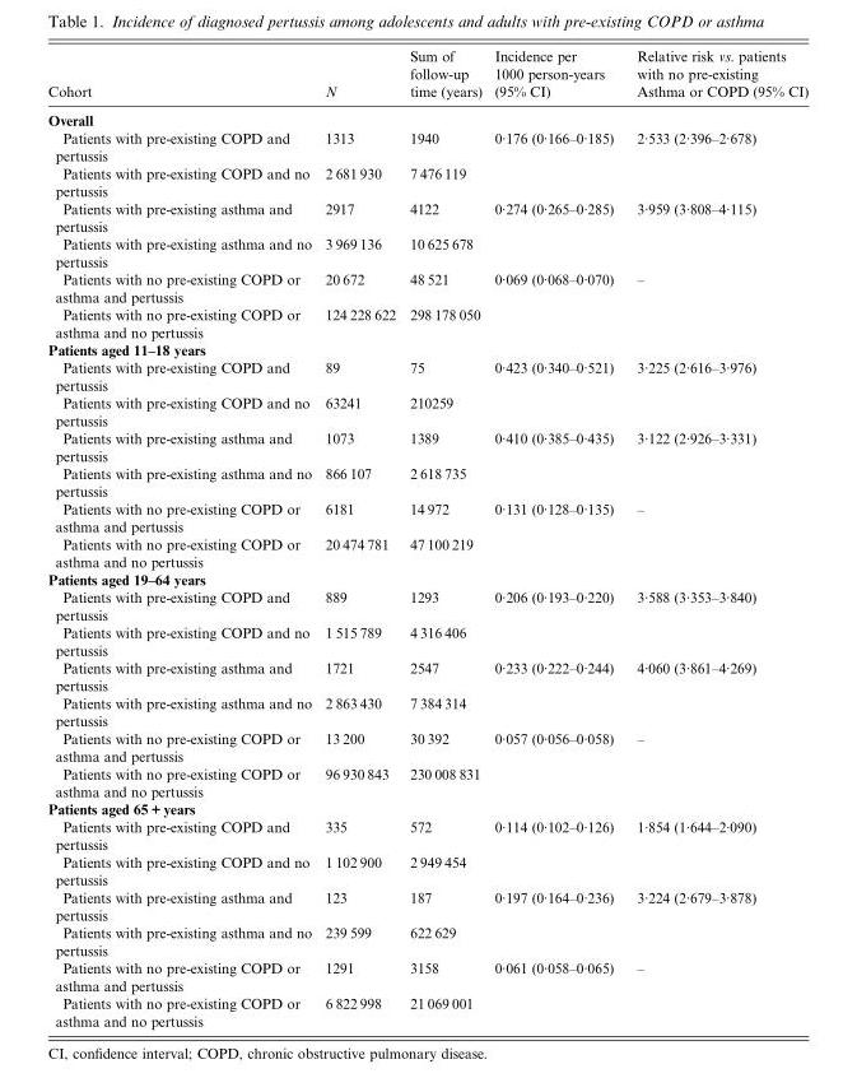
<table><thead><tr><td>Cohort</td><td>N</td><td>Sum of follow-up time (years)</td><td>Incidence per 1000 person-years (95% CI)</td><td>Relative risk vs. patients with no pre-existing Asthma or COPD (95% CI)</td></tr></thead><tbody><tr><td colspan="5">Overall</td></tr><tr><td>Patients with pre-existing COPD and pertussis</td><td>1313</td><td>1940</td><td>0·176 (0·166–0·185)</td><td>2·533 (2·396–2·678)</td></tr><tr><td>Patients with pre-existing COPD and no pertussis</td><td>2 681 930</td><td>7 476 119</td><td></td><td></td></tr><tr><td>Patients with pre-existing asthma and pertussis</td><td>2917</td><td>4122</td><td>0·274 (0·265–0·285)</td><td>3·959 (3·808–4·115)</td></tr><tr><td>Patients with pre-existing asthma and no pertussis</td><td>3 969 136</td><td>10 625 678</td><td></td><td></td></tr><tr><td>Patients with no pre-existing COPD or asthma and pertussis</td><td>20 672</td><td>48 521</td><td>0·069 (0·068–0·070)</td><td>–</td></tr><tr><td>Patients with no pre-existing COPD or asthma and no pertussis</td><td>124 228 622</td><td>298 178 050</td><td></td><td></td></tr><tr><td colspan="5">Patients aged 11–18 years</td></tr><tr><td>Patients with pre-existing COPD and pertussis</td><td>89</td><td>75</td><td>0·423 (0·340–0·521)</td><td>3·225 (2·616–3·976)</td></tr><tr><td>Patients with pre-existing COPD and no pertussis</td><td>63241</td><td>210259</td><td></td><td></td></tr><tr><td>Patients with pre-existing asthma and pertussis</td><td>1073</td><td>1389</td><td>0·410 (0·385–0·435)</td><td>3·122 (2·926–3·331)</td></tr><tr><td>Patients with pre-existing asthma and no pertussis</td><td>866 107</td><td>2 618 735</td><td></td><td></td></tr><tr><td>Patients with no pre-existing COPD or asthma and pertussis</td><td>6181</td><td>14 972</td><td>0·131 (0·128–0·135)</td><td>–</td></tr><tr><td>Patients with no pre-existing COPD or asthma and no pertussis</td><td>20 474 781</td><td>47 100 219</td><td></td><td></td></tr><tr><td colspan="5">Patients aged 19–64 years</td></tr><tr><td>Patients with pre-existing COPD and pertussis</td><td>889</td><td>1293</td><td>0·206 (0·193–0·220)</td><td>3·588 (3·353–3·840)</td></tr><tr><td>Patients with pre-existing COPD and no pertussis</td><td>1 515 789</td><td>4 316 406</td><td></td><td></td></tr><tr><td>Patients with pre-existing asthma and pertussis</td><td>1721</td><td>2547</td><td>0·233 (0·222–0·244)</td><td>4·060 (3·861–4·269)</td></tr><tr><td>Patients with pre-existing asthma and no pertussis</td><td>2 863 430</td><td>7 384 314</td><td></td><td></td></tr><tr><td>Patients with no pre-existing COPD or asthma and pertussis</td><td>13 200</td><td>30 392</td><td>0·057 (0·056–0·058)</td><td>–</td></tr><tr><td>Patients with no pre-existing COPD or asthma and no pertussis</td><td>96 930 843</td><td>230 008 831</td><td></td><td></td></tr><tr><td colspan="5">Patients aged 65 + years</td></tr><tr><td>Patients with pre-existing COPD and pertussis</td><td>335</td><td>572</td><td>0·114 (0·102–0·126)</td><td>1·854 (1·644–2·090)</td></tr><tr><td>Patients with pre-existing COPD and no pertussis</td><td>1 102 900</td><td>2 949 454</td><td></td><td></td></tr><tr><td>Patients with pre-existing asthma and pertussis</td><td>123</td><td>187</td><td>0·197 (0·164–0·236)</td><td>3·224 (2·679–3·878)</td></tr><tr><td>Patients with pre-existing asthma and no pertussis</td><td>239 599</td><td>622 629</td><td></td><td></td></tr><tr><td>Patients with no pre-existing COPD or asthma and pertussis</td><td>1291</td><td>3158</td><td>0·061 (0·058–0·065)</td><td>–</td></tr><tr><td>Patients with no pre-existing COPD or asthma and no pertussis</td><td>6 822 998</td><td>21 069 001</td><td></td><td></td></tr></tbody></table>